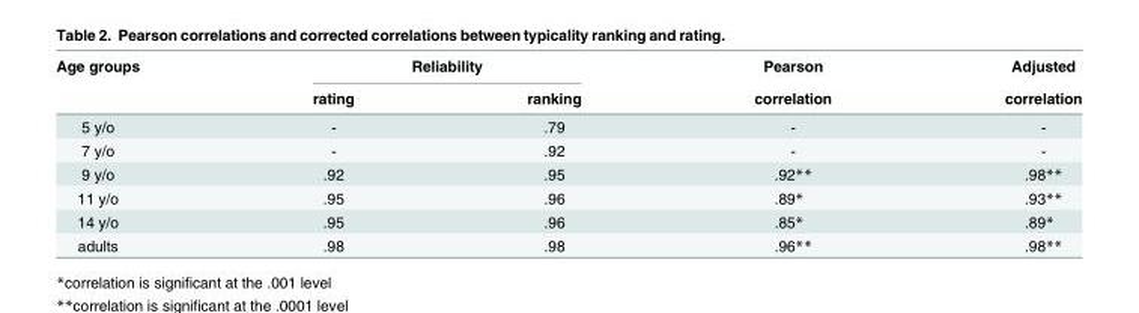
<table><thead><tr><td rowspan="2">Age groups</td><td colspan="2">Reliability</td><td rowspan="2">Pearson correlation</td><td rowspan="2">Adjusted correlation</td></tr><tr><td>rating</td><td>ranking</td></tr></thead><tbody><tr><td>5 y/o</td><td>-</td><td>.79</td><td>-</td><td>-</td></tr><tr><td>7 y/o</td><td>-</td><td>.92</td><td>-</td><td>-</td></tr><tr><td>9 y/o</td><td>.92</td><td>.95</td><td>.92**</td><td>.98**</td></tr><tr><td>11 y/o</td><td>.95</td><td>.96</td><td>.89*</td><td>.93**</td></tr><tr><td>14 y/o</td><td>.95</td><td>.96</td><td>.85*</td><td>.89*</td></tr><tr><td>adults</td><td>.98</td><td>.98</td><td>.96**</td><td>.98**</td></tr></tbody></table>